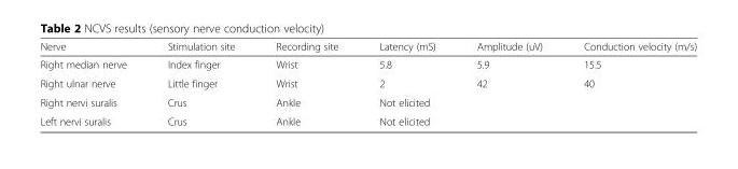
<table><thead><tr><td>Nerve</td><td>Stimulation site</td><td>Recording site</td><td>Latency (mS)</td><td>Amplitude (uV)</td><td>Conduction velocity (m/s)</td></tr></thead><tbody><tr><td>Right median nerve</td><td>Index finger</td><td>Wrist</td><td>5.8</td><td>5.9</td><td>15.5</td></tr><tr><td>Right ulnar nerve</td><td>Little finger</td><td>Wrist</td><td>2</td><td>42</td><td>40</td></tr><tr><td>Right nervi suralis</td><td>Crus</td><td>Ankle</td><td>Not elicited</td><td></td><td></td></tr><tr><td>Left nervi suralis</td><td>Crus</td><td>Ankle</td><td>Not elicited</td><td></td><td></td></tr></tbody></table>